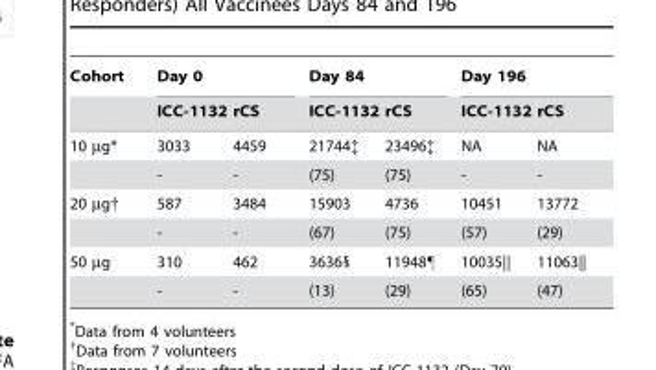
<table><thead><tr><td rowspan="2">Cohort</td><td colspan="2">Day 0</td><td colspan="2">Day 84</td><td colspan="2">Day 196</td></tr><tr><td>ICC-1132</td><td>rCS</td><td>ICC-1132</td><td>rCS</td><td>ICC-1132</td><td>rCS</td></tr></thead><tbody><tr><td rowspan="2">10 µg*</td><td>3033</td><td>4459</td><td>21744‡</td><td>23496‡</td><td>NA</td><td>NA</td></tr><tr><td>-</td><td>-</td><td>(75)</td><td>(75)</td><td>-</td><td>-</td></tr><tr><td rowspan="2">20 µg†</td><td>587</td><td>3484</td><td>15903</td><td>4736</td><td>10451</td><td>13772</td></tr><tr><td>-</td><td>-</td><td>(67)</td><td>(75)</td><td>(57)</td><td>(29)</td></tr><tr><td rowspan="2">50 µg</td><td>310</td><td>462</td><td>3636§</td><td>11948¶</td><td>10035||</td><td>11063||</td></tr><tr><td>-</td><td>-</td><td>(13)</td><td>(29)</td><td>(65)</td><td>(47)</td></tr></tbody></table>